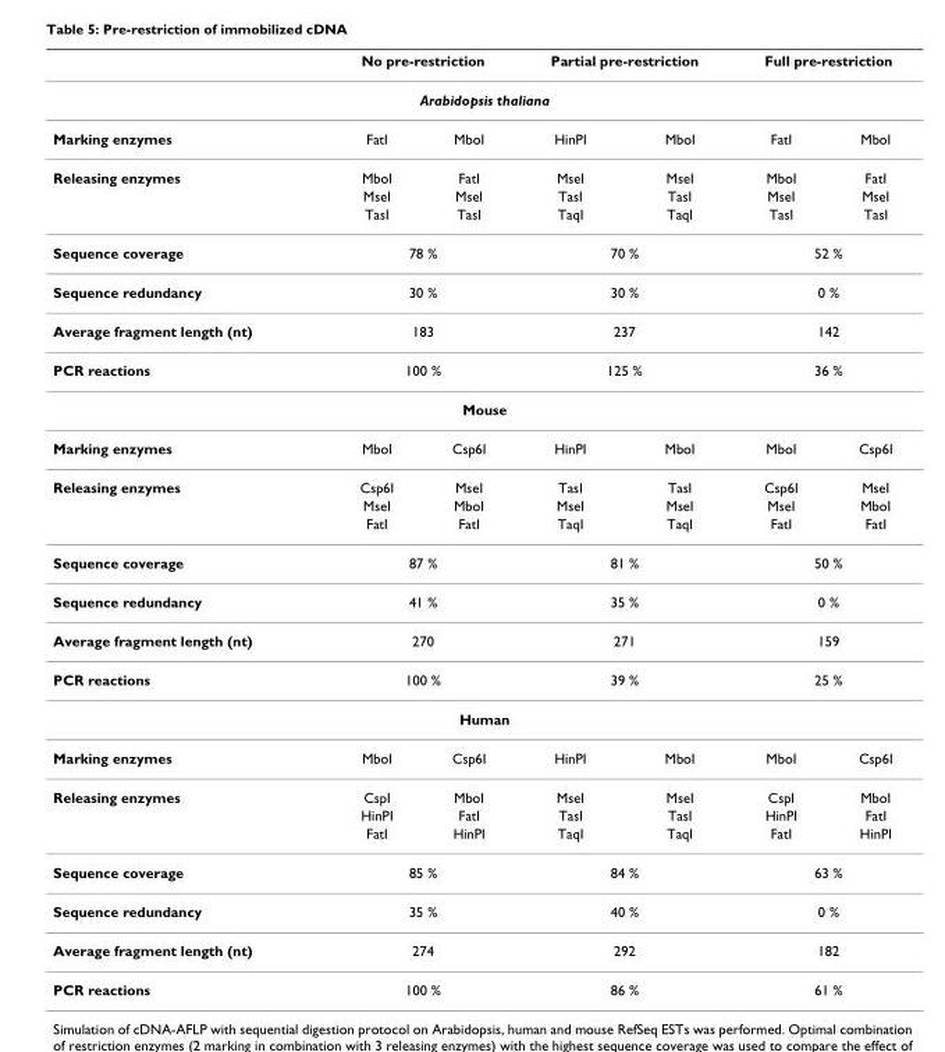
<table><thead><tr><td></td><td colspan="2">No pre-restriction</td><td colspan="2">Partial pre-restriction</td><td colspan="2">Full pre-restriction</td></tr><tr><td colspan="7">Arabidopsis thaliana</td></tr><tr><td>Marking enzymes</td><td>FatI</td><td>MboI</td><td>HinPI</td><td>MboI</td><td>FatI</td><td>MboI</td></tr></thead><tbody><tr><td rowspan="3">Releasing enzymes</td><td>MboI</td><td>FatI</td><td>MseI</td><td>MseI</td><td>MboI</td><td>FatI</td></tr><tr><td>MseI</td><td>MseI</td><td>TasI</td><td>TasI</td><td>MseI</td><td>MseI</td></tr><tr><td>TasI</td><td>TasI</td><td>TaqI</td><td>TaqI</td><td>TasI</td><td>TasI</td></tr><tr><td>Sequence coverage</td><td colspan="2">78 %</td><td colspan="2">70 %</td><td colspan="2">52 %</td></tr><tr><td>Sequence redundancy</td><td colspan="2">30 %</td><td colspan="2">30 %</td><td colspan="2">0 %</td></tr><tr><td>Average fragment length (nt)</td><td colspan="2">183</td><td colspan="2">237</td><td colspan="2">142</td></tr><tr><td>PCR reactions</td><td colspan="2">100 %</td><td colspan="2">125 %</td><td colspan="2">36 %</td></tr><tr><td colspan="7">Mouse</td></tr><tr><td>Marking enzymes</td><td>MboI</td><td>Csp6I</td><td>HinPI</td><td>MboI</td><td>MboI</td><td>Csp6I</td></tr><tr><td rowspan="3">Releasing enzymes</td><td>Csp6I</td><td>MseI</td><td>TasI</td><td>TasI</td><td>Csp6I</td><td>MseI</td></tr><tr><td>MseI</td><td>MboI</td><td>MseI</td><td>MseI</td><td>MseI</td><td>MboI</td></tr><tr><td>FatI</td><td>FatI</td><td>TaqI</td><td>TaqI</td><td>FatI</td><td>FatI</td></tr><tr><td>Sequence coverage</td><td colspan="2">87 %</td><td colspan="2">81 %</td><td colspan="2">50 %</td></tr><tr><td>Sequence redundancy</td><td colspan="2">41 %</td><td colspan="2">35 %</td><td colspan="2">0 %</td></tr><tr><td>Average fragment length (nt)</td><td colspan="2">270</td><td colspan="2">271</td><td colspan="2">159</td></tr><tr><td>PCR reactions</td><td colspan="2">100 %</td><td colspan="2">39 %</td><td colspan="2">25 %</td></tr><tr><td colspan="7">Human</td></tr><tr><td>Marking enzymes</td><td>MboI</td><td>Csp6I</td><td>HinPI</td><td>MboI</td><td>MboI</td><td>Csp6I</td></tr><tr><td rowspan="3">Releasing enzymes</td><td>CspI</td><td>MboI</td><td>MseI</td><td>MseI</td><td>CspI</td><td>MboI</td></tr><tr><td>HinPI</td><td>FatI</td><td>TasI</td><td>TasI</td><td>HinPI</td><td>FatI</td></tr><tr><td>FatI</td><td>HinPI</td><td>TaqI</td><td>TaqI</td><td>FatI</td><td>HinPI</td></tr><tr><td>Sequence coverage</td><td colspan="2">85 %</td><td colspan="2">84 %</td><td colspan="2">63 %</td></tr><tr><td>Sequence redundancy</td><td colspan="2">35 %</td><td colspan="2">40 %</td><td colspan="2">0 %</td></tr><tr><td>Average fragment length (nt)</td><td colspan="2">274</td><td colspan="2">292</td><td colspan="2">182</td></tr><tr><td>PCR reactions</td><td colspan="2">100 %</td><td colspan="2">86 %</td><td colspan="2">61 %</td></tr></tbody></table>